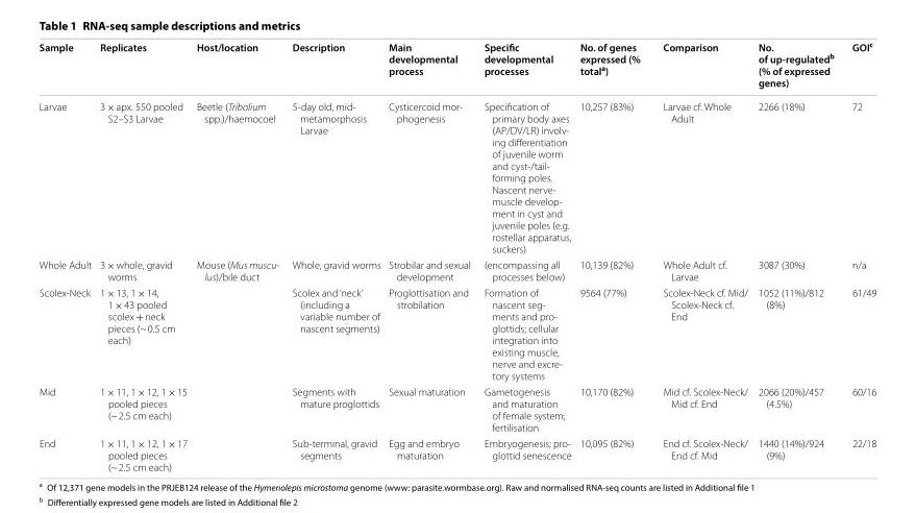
<table><thead><tr><td>Sample</td><td>Replicates</td><td>Host/location</td><td>Description</td><td>Main developmental process</td><td>Specific developmental processes</td><td>No. of genes expressed (% total<sup>a</sup>)</td><td>Comparison</td><td>No. of up-regulated<sup>b</sup> (% of expressed genes)</td><td>GOI<sup>c</sup></td></tr></thead><tbody><tr><td>Larvae</td><td>3 × apx. 550 pooled S2–S3 Larvae</td><td>Beetle (Tribolium spp.)/haemocoel</td><td>5-day old, mid- metamorphosis Larvae</td><td>Cysticercoid mor- phogenesis</td><td>Specification of primary body axes (AP/DV/LR) involv- ing differentiation of juvenile worm and cyst-/tail- forming poles. Nascent nerve- muscle develop- ment in cyst and juvenile poles (e.g. rostellar apparatus, suckers)</td><td>10,257 (83%)</td><td>Larvae cf. Whole Adult</td><td>2266 (18%)</td><td>72</td></tr><tr><td>Whole Adult</td><td>3 × whole, gravid worms</td><td>Mouse (Mus muscu- lus)/bile duct</td><td>Whole, gravid worms</td><td>Strobilar and sexual development</td><td>(encompassing all processes below)</td><td>10,139 (82%)</td><td>Whole Adult cf. Larvae</td><td>3087 (30%)</td><td>n/a</td></tr><tr><td>Scolex-Neck</td><td>1 × 13, 1 × 14, 1 × 43 pooled scolex + neck pieces (~ 0.5 cm each)</td><td></td><td>Scolex and ‘neck’ (including a variable number of nascent segments)</td><td>Proglottisation and strobilation</td><td>Formation of nascent seg- ments and pro- glottids; cellular integration into existing muscle, nerve and excre- tory systems</td><td>9564 (77%)</td><td>Scolex-Neck cf. Mid/ Scolex-Neck cf. End</td><td>1052 (11%)/812 (8%)</td><td>61/49</td></tr><tr><td>Mid</td><td>1 × 11, 1 × 12, 1 × 15 pooled pieces (~ 2.5 cm each)</td><td></td><td>Segments with mature proglottids</td><td>Sexual maturation</td><td>Gametogenesis and maturation of female system; fertilisation</td><td>10,170 (82%)</td><td>Mid cf. Scolex-Neck/ Mid cf. End</td><td>2066 (20%)/457 (4.5%)</td><td>60/16</td></tr><tr><td>End</td><td>1 × 11, 1 × 12, 1 × 17 pooled pieces (~ 2.5 cm each)</td><td></td><td>Sub-terminal, gravid segments</td><td>Egg and embryo maturation</td><td>Embryogenesis; pro- glottid senescence</td><td>10,095 (82%)</td><td>End cf. Scolex-Neck/ End cf. Mid</td><td>1440 (14%)/924 (9%)</td><td>22/18</td></tr></tbody></table>